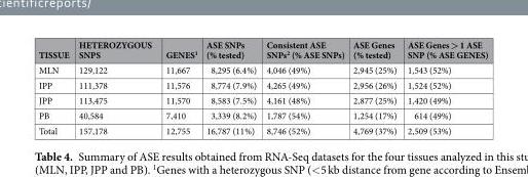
<table><thead><tr><td>TISSUE</td><td>HETEROZYGOUS SNPS</td><td>GENES<sup>1</sup></td><td>ASE SNPs (% tested)</td><td>Consistent ASE SNPs<sup>2</sup> (% ASE SNPs)</td><td>ASE Genes (% tested)</td><td>ASE Genes &gt; 1 ASE SNP (% ASE GENES)</td></tr></thead><tbody><tr><td>MLN</td><td>129,122</td><td>11,667</td><td>8,295 (6.4%)</td><td>4,046 (49%)</td><td>2,945 (25%)</td><td>1,543 (52%)</td></tr><tr><td>IPP</td><td>111,378</td><td>11,576</td><td>8,774 (7.9%)</td><td>4,265 (49%)</td><td>2,956 (26%)</td><td>1,524 (52%)</td></tr><tr><td>JPP</td><td>113,475</td><td>11,570</td><td>8,583 (7.5%)</td><td>4,161 (48%)</td><td>2,877 (25%)</td><td>1,420 (49%)</td></tr><tr><td>PB</td><td>40,584</td><td>7,410</td><td>3,339 (8.2%)</td><td>1,787 (54%)</td><td>1,254 (17%)</td><td>614 (49%)</td></tr><tr><td>Total</td><td>157,178</td><td>12,755</td><td>16,787 (11%)</td><td>8,746 (52%)</td><td>4,769 (37%)</td><td>2,509 (53%)</td></tr></tbody></table>